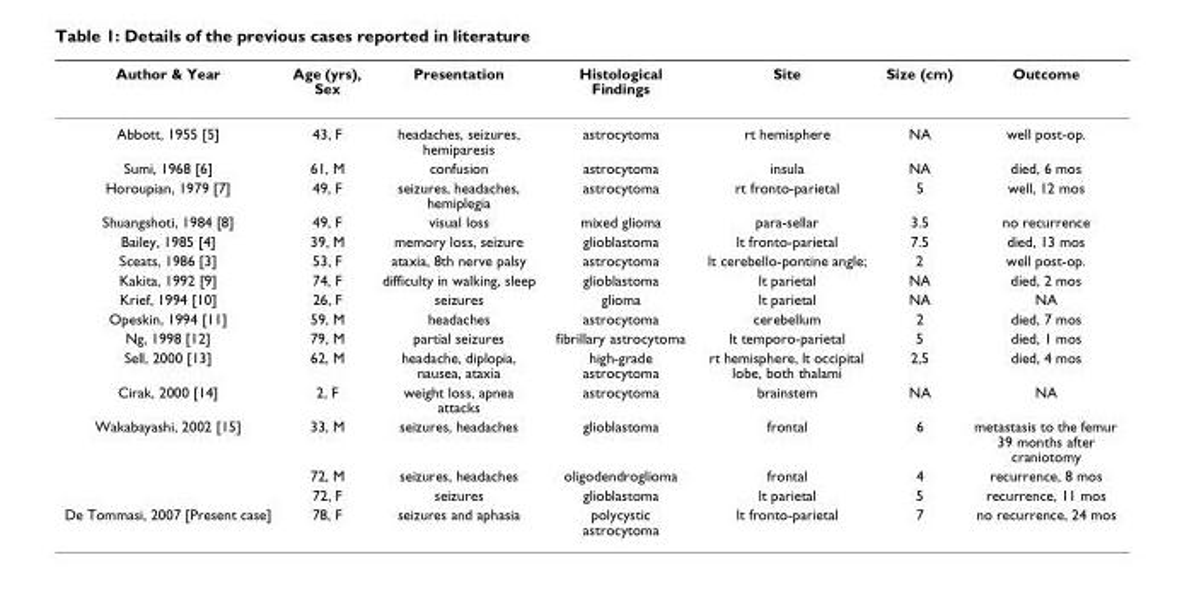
<table><thead><tr><td>Author &amp; Year</td><td>Age (yrs), Sex</td><td>Presentation</td><td>Histological Findings</td><td>Site</td><td>Size (cm)</td><td>Outcome</td></tr></thead><tbody><tr><td>Abbott, 1955 [5]</td><td>43, F</td><td>headaches, seizures, hemiparesis</td><td>astrocytoma</td><td>rt hemisphere</td><td>NA</td><td>well post-op.</td></tr><tr><td>Sumi, 1968 [6]</td><td>61, M</td><td>confusion</td><td>astrocytoma</td><td>insula</td><td>NA</td><td>died, 6 mos</td></tr><tr><td>Horoupian, 1979 [7]</td><td>49, F</td><td>seizures, headaches, hemiplegia</td><td>astrocytoma</td><td>rt fronto-parietal</td><td>5</td><td>well, 12 mos</td></tr><tr><td>Shuangshoti, 1984 [8]</td><td>49, F</td><td>visual loss</td><td>mixed glioma</td><td>para-sellar</td><td>3.5</td><td>no recurrence</td></tr><tr><td>Bailey, 1985 [4]</td><td>39, M</td><td>memory loss, seizure</td><td>glioblastoma</td><td>lt fronto-parietal</td><td>7.5</td><td>died, 13 mos</td></tr><tr><td>Sceats, 1986 [3]</td><td>53, F</td><td>ataxia, 8th nerve palsy</td><td>astrocytoma</td><td>lt cerebello-pontine angle;</td><td>2</td><td>well post-op.</td></tr><tr><td>Kakita, 1992 [9]</td><td>74, F</td><td>difficulty in walking, sleep</td><td>glioblastoma</td><td>lt parietal</td><td>NA</td><td>died, 2 mos</td></tr><tr><td>Krief, 1994 [10]</td><td>26, F</td><td>seizures</td><td>glioma</td><td>lt parietal</td><td>NA</td><td>NA</td></tr><tr><td>Opeskin, 1994 [11]</td><td>59, M</td><td>headaches</td><td>astrocytoma</td><td>cerebellum</td><td>2</td><td>died, 7 mos</td></tr><tr><td>Ng, 1998 [12]</td><td>79, M</td><td>partial seizures</td><td>fibrillary astrocytoma</td><td>lt temporo-parietal</td><td>5</td><td>died, 1 mos</td></tr><tr><td>Sell, 2000 [13]</td><td>62, M</td><td>headache, diplopia, nausea, ataxia</td><td>high-grade astrocytoma</td><td>rt hemisphere, lt occipital lobe, both thalami</td><td>2,5</td><td>died, 4 mos</td></tr><tr><td>Cirak, 2000 [14]</td><td>2, F</td><td>weight loss, apnea attacks</td><td>astrocytoma</td><td>brainstem</td><td>NA</td><td>NA</td></tr><tr><td rowspan="3">Wakabayashi, 2002 [15]</td><td>33, M</td><td>seizures, headaches</td><td>glioblastoma</td><td>frontal</td><td>6</td><td>metastasis to the femur 39 months after craniotomy</td></tr><tr><td>72, M</td><td>seizures, headaches</td><td>oligodendroglioma</td><td>frontal</td><td>4</td><td>recurrence, 8 mos</td></tr><tr><td>72, F</td><td>seizures</td><td>glioblastoma</td><td>lt parietal</td><td>5</td><td>recurrence, 11 mos</td></tr><tr><td>De Tommasi, 2007 [Present case]</td><td>78, F</td><td>seizures and aphasia</td><td>polycystic astrocytoma</td><td>lt fronto-parietal</td><td>7</td><td>no recurrence, 24 mos</td></tr></tbody></table>